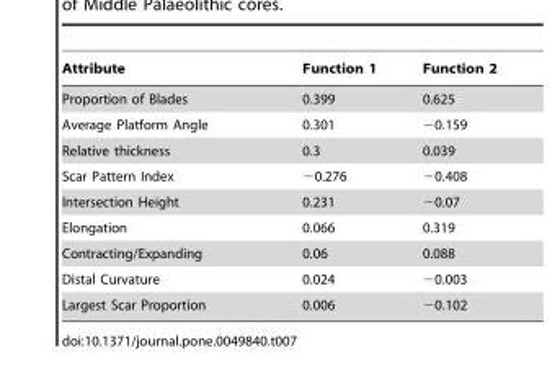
<table><thead><tr><td>Attribute</td><td>Function 1</td><td>Function 2</td></tr></thead><tbody><tr><td>Proportion of Blades</td><td>0.399</td><td>0.625</td></tr><tr><td>Average Platform Angle</td><td>0.301</td><td>−0.159</td></tr><tr><td>Relative thickness</td><td>0.3</td><td>0.039</td></tr><tr><td>Scar Pattern Index</td><td>−0.276</td><td>−0.408</td></tr><tr><td>Intersection Height</td><td>0.231</td><td>−0.07</td></tr><tr><td>Elongation</td><td>0.066</td><td>0.319</td></tr><tr><td>Contracting/Expanding</td><td>0.06</td><td>0.088</td></tr><tr><td>Distal Curvature</td><td>0.024</td><td>−0.003</td></tr><tr><td>Largest Scar Proportion</td><td>0.006</td><td>−0.102</td></tr></tbody></table>